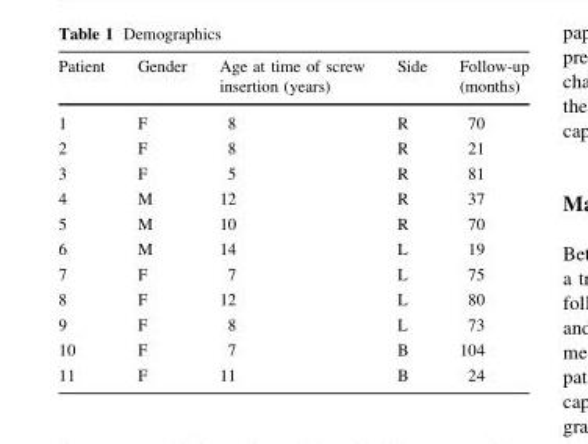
<table><thead><tr><td>Patient</td><td>Gender</td><td>Age at time of screw insertion (years)</td><td>Side</td><td>Follow-up (months)</td></tr></thead><tbody><tr><td>1</td><td>F</td><td>8</td><td>R</td><td>70</td></tr><tr><td>2</td><td>F</td><td>8</td><td>R</td><td>21</td></tr><tr><td>3</td><td>F</td><td>5</td><td>R</td><td>81</td></tr><tr><td>4</td><td>M</td><td>12</td><td>R</td><td>37</td></tr><tr><td>5</td><td>M</td><td>10</td><td>R</td><td>70</td></tr><tr><td>6</td><td>M</td><td>14</td><td>L</td><td>19</td></tr><tr><td>7</td><td>F</td><td>7</td><td>L</td><td>75</td></tr><tr><td>8</td><td>F</td><td>12</td><td>L</td><td>80</td></tr><tr><td>9</td><td>F</td><td>8</td><td>L</td><td>73</td></tr><tr><td>10</td><td>F</td><td>7</td><td>B</td><td>104</td></tr><tr><td>11</td><td>F</td><td>11</td><td>B</td><td>24</td></tr></tbody></table>